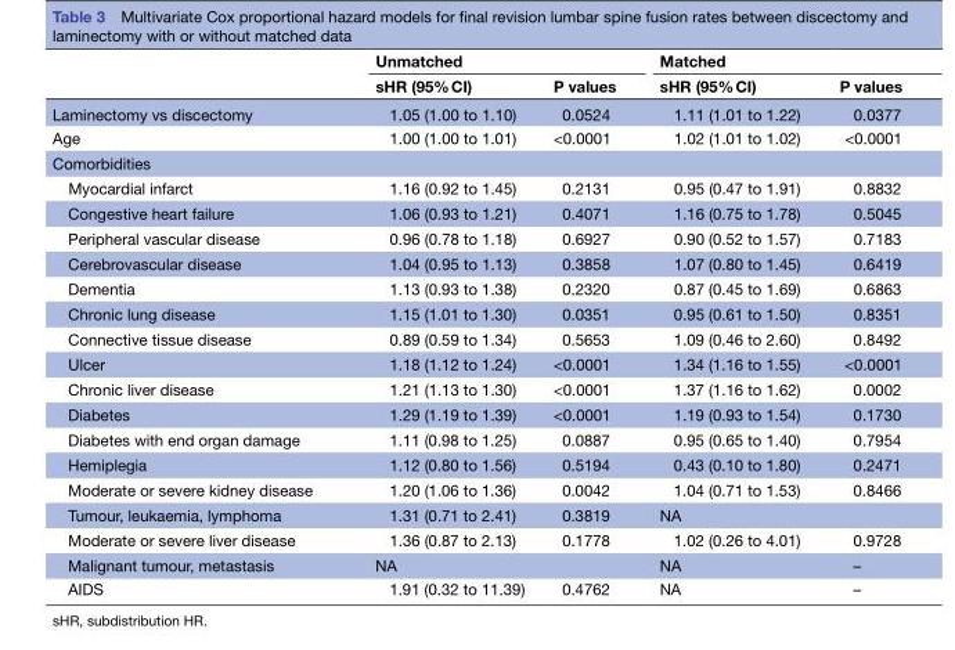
<table><thead><tr><td rowspan="2"></td><td colspan="2">Unmatched</td><td colspan="2">Matched</td></tr><tr><td>sHR (95% CI)</td><td>P values</td><td>sHR (95% CI)</td><td>P values</td></tr></thead><tbody><tr><td>Laminectomy vs discectomy</td><td>1.05 (1.00 to 1.10)</td><td>0.0524</td><td>1.11 (1.01 to 1.22)</td><td>0.0377</td></tr><tr><td>Age</td><td>1.00 (1.00 to 1.01)</td><td>&lt;0.0001</td><td>1.02 (1.01 to 1.02)</td><td>&lt;0.0001</td></tr><tr><td colspan="5">Comorbidities</td></tr><tr><td>Myocardial infarct</td><td>1.16 (0.92 to 1.45)</td><td>0.2131</td><td>0.95 (0.47 to 1.91)</td><td>0.8832</td></tr><tr><td>Congestive heart failure</td><td>1.06 (0.93 to 1.21)</td><td>0.4071</td><td>1.16 (0.75 to 1.78)</td><td>0.5045</td></tr><tr><td>Peripheral vascular disease</td><td>0.96 (0.78 to 1.18)</td><td>0.6927</td><td>0.90 (0.52 to 1.57)</td><td>0.7183</td></tr><tr><td>Cerebrovascular disease</td><td>1.04 (0.95 to 1.13)</td><td>0.3858</td><td>1.07 (0.80 to 1.45)</td><td>0.6419</td></tr><tr><td>Dementia</td><td>1.13 (0.93 to 1.38)</td><td>0.2320</td><td>0.87 (0.45 to 1.69)</td><td>0.6863</td></tr><tr><td>Chronic lung disease</td><td>1.15 (1.01 to 1.30)</td><td>0.0351</td><td>0.95 (0.61 to 1.50)</td><td>0.8351</td></tr><tr><td>Connective tissue disease</td><td>0.89 (0.59 to 1.34)</td><td>0.5653</td><td>1.09 (0.46 to 2.60)</td><td>0.8492</td></tr><tr><td>Ulcer</td><td>1.18 (1.12 to 1.24)</td><td>&lt;0.0001</td><td>1.34 (1.16 to 1.55)</td><td>&lt;0.0001</td></tr><tr><td>Chronic liver disease</td><td>1.21 (1.13 to 1.30)</td><td>&lt;0.0001</td><td>1.37 (1.16 to 1.62)</td><td>0.0002</td></tr><tr><td>Diabetes</td><td>1.29 (1.19 to 1.39)</td><td>&lt;0.0001</td><td>1.19 (0.93 to 1.54)</td><td>0.1730</td></tr><tr><td>Diabetes with end organ damage</td><td>1.11 (0.98 to 1.25)</td><td>0.0887</td><td>0.95 (0.65 to 1.40)</td><td>0.7954</td></tr><tr><td>Hemiplegia</td><td>1.12 (0.80 to 1.56)</td><td>0.5194</td><td>0.43 (0.10 to 1.80)</td><td>0.2471</td></tr><tr><td>Moderate or severe kidney disease</td><td>1.20 (1.06 to 1.36)</td><td>0.0042</td><td>1.04 (0.71 to 1.53)</td><td>0.8466</td></tr><tr><td>Tumour, leukaemia, lymphoma</td><td>1.31 (0.71 to 2.41)</td><td>0.3819</td><td>NA</td><td></td></tr><tr><td>Moderate or severe liver disease</td><td>1.36 (0.87 to 2.13)</td><td>0.1778</td><td>1.02 (0.26 to 4.01)</td><td>0.9728</td></tr><tr><td>Malignant tumour, metastasis</td><td>NA</td><td></td><td>NA</td><td>–</td></tr><tr><td>AIDS</td><td>1.91 (0.32 to 11.39)</td><td>0.4762</td><td>NA</td><td>–</td></tr></tbody></table>